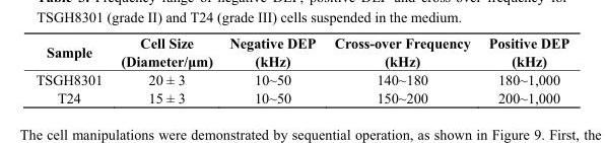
<table><thead><tr><td>Sample</td><td>Cell Size (Diameter/μm)</td><td>Negative DEP (kHz)</td><td>Cross-over Frequency (kHz)</td><td>Positive DEP (kHz)</td></tr></thead><tbody><tr><td>TSGH8301</td><td>20 ± 3</td><td>10~50</td><td>140~180</td><td>180~1,000</td></tr><tr><td>T24</td><td>15 ± 3</td><td>10~50</td><td>150~200</td><td>200~1,000</td></tr></tbody></table>